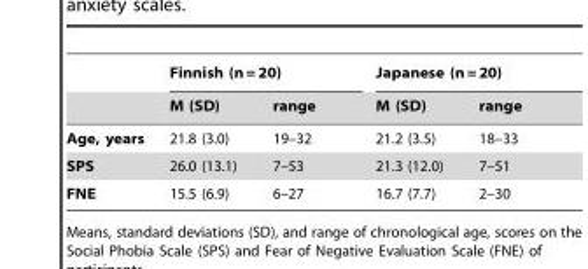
<table><thead><tr><td rowspan="2"></td><td colspan="2">Finnish (n = 20)</td><td colspan="2">Japanese (n = 20)</td></tr><tr><td>M (SD)</td><td>range</td><td>M (SD)</td><td>range</td></tr></thead><tbody><tr><td>Age, years</td><td>21.8 (3.0)</td><td>19–32</td><td>21.2 (3.5)</td><td>18–33</td></tr><tr><td>SPS</td><td>26.0 (13.1)</td><td>7–53</td><td>21.3 (12.0)</td><td>7–51</td></tr><tr><td>FNE</td><td>15.5 (6.9)</td><td>6–27</td><td>16.7 (7.7)</td><td>2–30</td></tr></tbody></table>